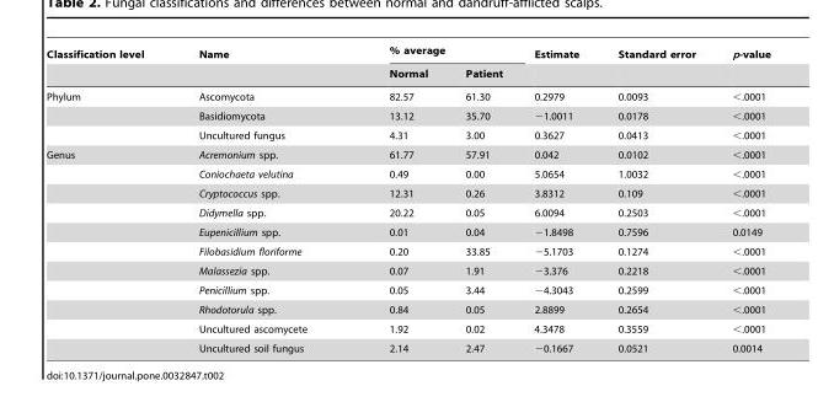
<table><thead><tr><td rowspan="2">Classification level</td><td rowspan="2">Name</td><td colspan="2">% average</td><td rowspan="2">Estimate</td><td rowspan="2">Standard error</td><td rowspan="2">p-value</td></tr><tr><td>Normal</td><td>Patient</td></tr></thead><tbody><tr><td rowspan="3">Phylum</td><td>Ascomycota</td><td>82.57</td><td>61.30</td><td>0.2979</td><td>0.0093</td><td>&lt;.0001</td></tr><tr><td>Basidiomycota</td><td>13.12</td><td>35.70</td><td>−1.0011</td><td>0.0178</td><td>&lt;.0001</td></tr><tr><td>Uncultured fungus</td><td>4.31</td><td>3.00</td><td>0.3627</td><td>0.0413</td><td>&lt;.0001</td></tr><tr><td rowspan="11">Genus</td><td>Acremonium spp.</td><td>61.77</td><td>57.91</td><td>0.042</td><td>0.0102</td><td>&lt;.0001</td></tr><tr><td>Coniochaeta velutina</td><td>0.49</td><td>0.00</td><td>5.0654</td><td>1.0032</td><td>&lt;.0001</td></tr><tr><td>Cryptococcus spp.</td><td>12.31</td><td>0.26</td><td>3.8312</td><td>0.109</td><td>&lt;.0001</td></tr><tr><td>Didymella spp.</td><td>20.22</td><td>0.05</td><td>6.0094</td><td>0.2503</td><td>&lt;.0001</td></tr><tr><td>Eupenicillium spp.</td><td>0.01</td><td>0.04</td><td>−1.8498</td><td>0.7596</td><td>0.0149</td></tr><tr><td>Filobasidium floriforme</td><td>0.20</td><td>33.85</td><td>−5.1703</td><td>0.1274</td><td>&lt;.0001</td></tr><tr><td>Malassezia spp.</td><td>0.07</td><td>1.91</td><td>−3.376</td><td>0.2218</td><td>&lt;.0001</td></tr><tr><td>Penicillium spp.</td><td>0.05</td><td>3.44</td><td>−4.3043</td><td>0.2599</td><td>&lt;.0001</td></tr><tr><td>Rhodotorula spp.</td><td>0.84</td><td>0.05</td><td>2.8899</td><td>0.2654</td><td>&lt;.0001</td></tr><tr><td>Uncultured ascomycete</td><td>1.92</td><td>0.02</td><td>4.3478</td><td>0.3559</td><td>&lt;.0001</td></tr><tr><td>Uncultured soil fungus</td><td>2.14</td><td>2.47</td><td>−0.1667</td><td>0.0521</td><td>0.0014</td></tr></tbody></table>